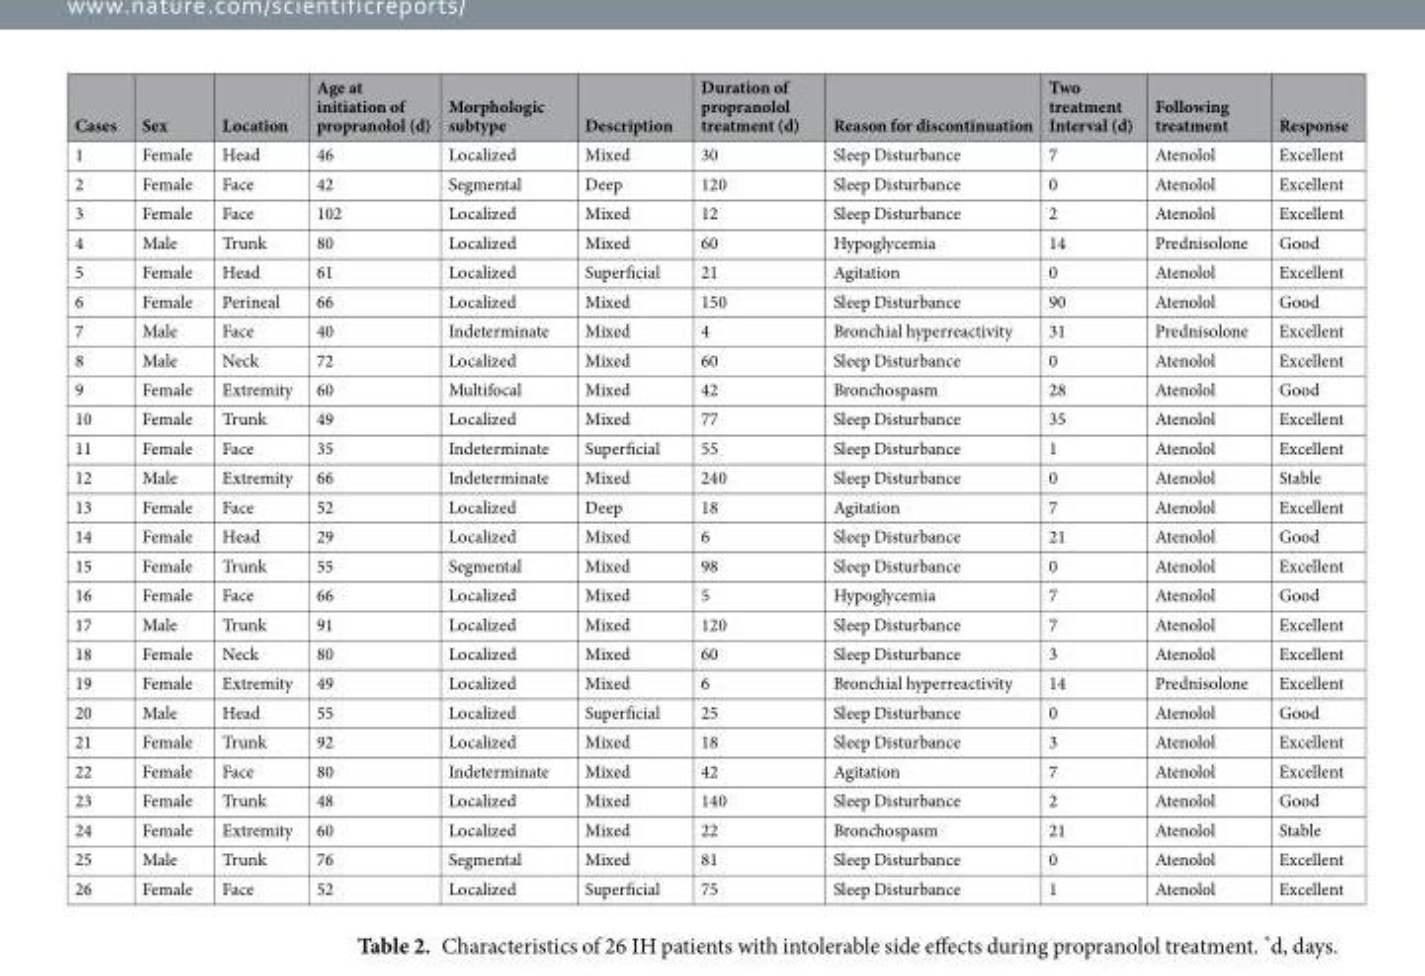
<table><thead><tr><td>Cases</td><td>Sex</td><td>Location</td><td>Age at initiation of propranolol (d)</td><td>Morphologic subtype</td><td>Description</td><td>Duration of propranolol treatment (d)</td><td>Reason for discontinuation</td><td>Two treatment Interval (d)</td><td>Following treatment</td><td>Response</td></tr></thead><tbody><tr><td>1</td><td>Female</td><td>Head</td><td>46</td><td>Localized</td><td>Mixed</td><td>30</td><td>Sleep Disturbance</td><td>7</td><td>Atenolol</td><td>Excellent</td></tr><tr><td>2</td><td>Female</td><td>Face</td><td>42</td><td>Segmental</td><td>Deep</td><td>120</td><td>Sleep Disturbance</td><td>0</td><td>Atenolol</td><td>Excellent</td></tr><tr><td>3</td><td>Female</td><td>Face</td><td>102</td><td>Localized</td><td>Mixed</td><td>12</td><td>Sleep Disturbance</td><td>2</td><td>Atenolol</td><td>Excellent</td></tr><tr><td>4</td><td>Male</td><td>Trunk</td><td>80</td><td>Localized</td><td>Mixed</td><td>60</td><td>Hypoglycemia</td><td>14</td><td>Prednisolone</td><td>Good</td></tr><tr><td>5</td><td>Female</td><td>Head</td><td>61</td><td>Localized</td><td>Superficial</td><td>21</td><td>Agitation</td><td>0</td><td>Atenolol</td><td>Excellent</td></tr><tr><td>6</td><td>Female</td><td>Perineal</td><td>66</td><td>Localized</td><td>Mixed</td><td>150</td><td>Sleep Disturbance</td><td>90</td><td>Atenolol</td><td>Good</td></tr><tr><td>7</td><td>Male</td><td>Face</td><td>40</td><td>Indeterminate</td><td>Mixed</td><td>4</td><td>Bronchial hyperreactivity</td><td>31</td><td>Prednisolone</td><td>Excellent</td></tr><tr><td>8</td><td>Male</td><td>Neck</td><td>72</td><td>Localized</td><td>Mixed</td><td>60</td><td>Sleep Disturbance</td><td>0</td><td>Atenolol</td><td>Excellent</td></tr><tr><td>9</td><td>Female</td><td>Extremity</td><td>60</td><td>Multifocal</td><td>Mixed</td><td>42</td><td>Bronchospasm</td><td>28</td><td>Atenolol</td><td>Good</td></tr><tr><td>10</td><td>Female</td><td>Trunk</td><td>49</td><td>Localized</td><td>Mixed</td><td>77</td><td>Sleep Disturbance</td><td>35</td><td>Atenolol</td><td>Excellent</td></tr><tr><td>11</td><td>Female</td><td>Face</td><td>35</td><td>Indeterminate</td><td>Superficial</td><td>55</td><td>Sleep Disturbance</td><td>1</td><td>Atenolol</td><td>Excellent</td></tr><tr><td>12</td><td>Male</td><td>Extremity</td><td>66</td><td>Indeterminate</td><td>Mixed</td><td>240</td><td>Sleep Disturbance</td><td>0</td><td>Atenolol</td><td>Stable</td></tr><tr><td>13</td><td>Female</td><td>Face</td><td>52</td><td>Localized</td><td>Deep</td><td>18</td><td>Agitation</td><td>7</td><td>Atenolol</td><td>Excellent</td></tr><tr><td>14</td><td>Female</td><td>Head</td><td>29</td><td>Localized</td><td>Mixed</td><td>6</td><td>Sleep Disturbance</td><td>21</td><td>Atenolol</td><td>Good</td></tr><tr><td>15</td><td>Female</td><td>Trunk</td><td>55</td><td>Segmental</td><td>Mixed</td><td>98</td><td>Sleep Disturbance</td><td>0</td><td>Atenolol</td><td>Excellent</td></tr><tr><td>16</td><td>Female</td><td>Face</td><td>66</td><td>Localized</td><td>Mixed</td><td>5</td><td>Hypoglycemia</td><td>7</td><td>Atenolol</td><td>Good</td></tr><tr><td>17</td><td>Male</td><td>Trunk</td><td>91</td><td>Localized</td><td>Mixed</td><td>120</td><td>Sleep Disturbance</td><td>7</td><td>Atenolol</td><td>Excellent</td></tr><tr><td>18</td><td>Female</td><td>Neck</td><td>80</td><td>Localized</td><td>Mixed</td><td>60</td><td>Sleep Disturbance</td><td>3</td><td>Atenolol</td><td>Excellent</td></tr><tr><td>19</td><td>Female</td><td>Extremity</td><td>49</td><td>Localized</td><td>Mixed</td><td>6</td><td>Bronchial hyperreactivity</td><td>14</td><td>Prednisolone</td><td>Excellent</td></tr><tr><td>20</td><td>Male</td><td>Head</td><td>55</td><td>Localized</td><td>Superficial</td><td>25</td><td>Sleep Disturbance</td><td>0</td><td>Atenolol</td><td>Good</td></tr><tr><td>21</td><td>Female</td><td>Trunk</td><td>92</td><td>Localized</td><td>Mixed</td><td>18</td><td>Sleep Disturbance</td><td>3</td><td>Atenolol</td><td>Excellent</td></tr><tr><td>22</td><td>Female</td><td>Face</td><td>80</td><td>Indeterminate</td><td>Mixed</td><td>42</td><td>Agitation</td><td>7</td><td>Atenolol</td><td>Excellent</td></tr><tr><td>23</td><td>Female</td><td>Trunk</td><td>48</td><td>Localized</td><td>Mixed</td><td>140</td><td>Sleep Disturbance</td><td>2</td><td>Atenolol</td><td>Good</td></tr><tr><td>24</td><td>Female</td><td>Extremity</td><td>60</td><td>Localized</td><td>Mixed</td><td>22</td><td>Bronchospasm</td><td>21</td><td>Atenolol</td><td>Stable</td></tr><tr><td>25</td><td>Male</td><td>Trunk</td><td>76</td><td>Segmental</td><td>Mixed</td><td>81</td><td>Sleep Disturbance</td><td>0</td><td>Atenolol</td><td>Excellent</td></tr><tr><td>26</td><td>Female</td><td>Face</td><td>52</td><td>Localized</td><td>Superficial</td><td>75</td><td>Sleep Disturbance</td><td>1</td><td>Atenolol</td><td>Excellent</td></tr></tbody></table>